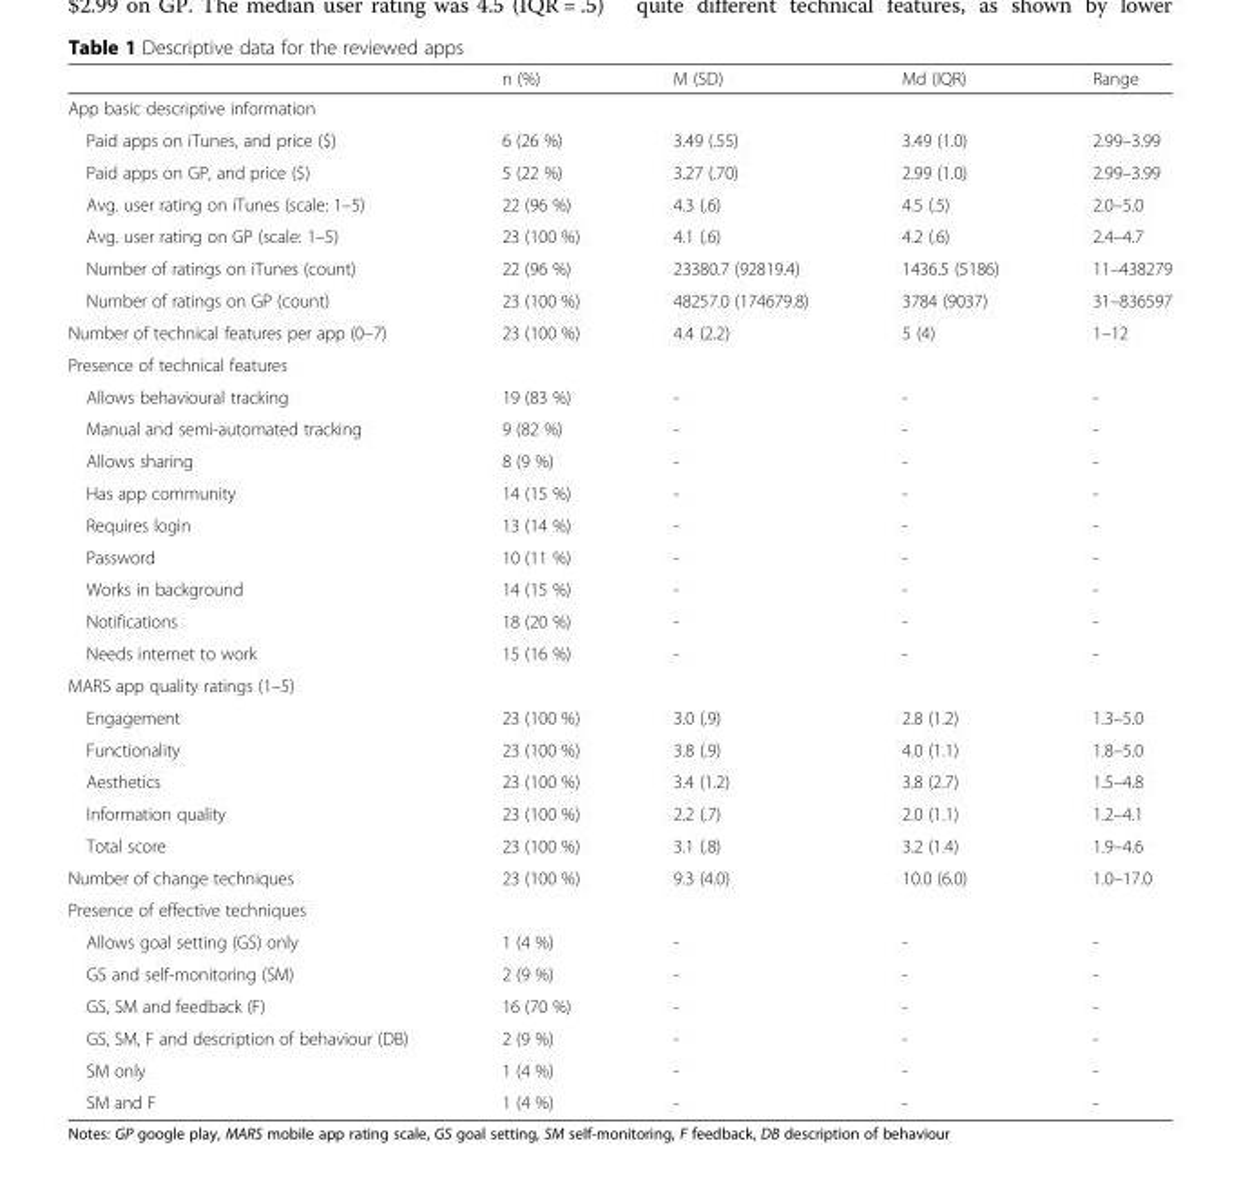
<table><thead><tr><td></td><td>n (%)</td><td>M (SD)</td><td>Md (IQR)</td><td>Range</td></tr></thead><tbody><tr><td colspan="5">App basic descriptive information</td></tr><tr><td>Paid apps on iTunes, and price ($)</td><td>6 (26 %)</td><td>3.49 (.55)</td><td>3.49 (1.0)</td><td>2.99–3.99</td></tr><tr><td>Paid apps on GP, and price ($)</td><td>5 (22 %)</td><td>3.27 (.70)</td><td>2.99 (1.0)</td><td>2.99–3.99</td></tr><tr><td>Avg. user rating on iTunes (scale: 1–5)</td><td>22 (96 %)</td><td>4.3 (.6)</td><td>4.5 (.5)</td><td>2.0–5.0</td></tr><tr><td>Avg. user rating on GP (scale: 1–5)</td><td>23 (100 %)</td><td>4.1 (.6)</td><td>4.2 (.6)</td><td>2.4–4.7</td></tr><tr><td>Number of ratings on iTunes (count)</td><td>22 (96 %)</td><td>23380.7 (92819.4)</td><td>1436.5 (5186)</td><td>11–438279</td></tr><tr><td>Number of ratings on GP (count)</td><td>23 (100 %)</td><td>48257.0 (174679.8)</td><td>3784 (9037)</td><td>31–836597</td></tr><tr><td>Number of technical features per app (0–7)</td><td>23 (100 %)</td><td>4.4 (2.2)</td><td>5 (4)</td><td>1–12</td></tr><tr><td colspan="5">Presence of technical features</td></tr><tr><td>Allows behavioural tracking</td><td>19 (83 %)</td><td>-</td><td>-</td><td>-</td></tr><tr><td>Manual and semi-automated tracking</td><td>9 (82 %)</td><td>-</td><td>-</td><td>-</td></tr><tr><td>Allows sharing</td><td>8 (9 %)</td><td>-</td><td>-</td><td>-</td></tr><tr><td>Has app community</td><td>14 (15 %)</td><td>-</td><td>-</td><td>-</td></tr><tr><td>Requires login</td><td>13 (14 %)</td><td>-</td><td>-</td><td>-</td></tr><tr><td>Password</td><td>10 (11 %)</td><td>-</td><td>-</td><td>-</td></tr><tr><td>Works in background</td><td>14 (15 %)</td><td>-</td><td>-</td><td>-</td></tr><tr><td>Notifications</td><td>18 (20 %)</td><td>-</td><td>-</td><td>-</td></tr><tr><td>Needs internet to work</td><td>15 (16 %)</td><td>-</td><td>-</td><td>-</td></tr><tr><td colspan="5">MARS app quality ratings (1–5)</td></tr><tr><td>Engagement</td><td>23 (100 %)</td><td>3.0 (.9)</td><td>2.8 (1.2)</td><td>1.3–5.0</td></tr><tr><td>Functionality</td><td>23 (100 %)</td><td>3.8 (.9)</td><td>4.0 (1.1)</td><td>1.8–5.0</td></tr><tr><td>Aesthetics</td><td>23 (100 %)</td><td>3.4 (1.2)</td><td>3.8 (2.7)</td><td>1.5–4.8</td></tr><tr><td>Information quality</td><td>23 (100 %)</td><td>2.2 (.7)</td><td>2.0 (1.1)</td><td>1.2–4.1</td></tr><tr><td>Total score</td><td>23 (100 %)</td><td>3.1 (.8)</td><td>3.2 (1.4)</td><td>1.9–4.6</td></tr><tr><td>Number of change techniques</td><td>23 (100 %)</td><td>9.3 (4.0)</td><td>10.0 (6.0)</td><td>1.0–17.0</td></tr><tr><td colspan="5">Presence of effective techniques</td></tr><tr><td>Allows goal setting (GS) only</td><td>1 (4 %)</td><td>-</td><td>-</td><td>-</td></tr><tr><td>GS and self-monitoring (SM)</td><td>2 (9 %)</td><td>-</td><td>-</td><td>-</td></tr><tr><td>GS, SM and feedback (F)</td><td>16 (70 %)</td><td>-</td><td>-</td><td>-</td></tr><tr><td>GS, SM, F and description of behaviour (DB)</td><td>2 (9 %)</td><td>-</td><td>-</td><td>-</td></tr><tr><td>SM only</td><td>1 (4 %)</td><td>-</td><td>-</td><td>-</td></tr><tr><td>SM and F</td><td>1 (4 %)</td><td>-</td><td>-</td><td>-</td></tr></tbody></table>